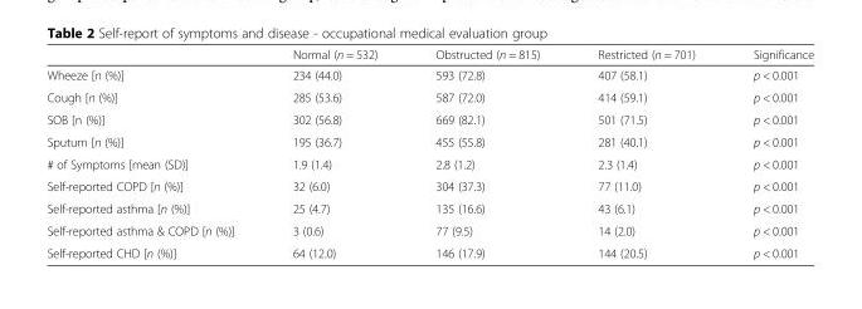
<table><thead><tr><td></td><td>Normal (n = 532)</td><td>Obstructed (n = 815)</td><td>Restricted (n = 701)</td><td>Significance</td></tr></thead><tbody><tr><td>Wheeze [n (%)]</td><td>234 (44.0)</td><td>593 (72.8)</td><td>407 (58.1)</td><td>p &lt; 0.001</td></tr><tr><td>Cough [n (%)]</td><td>285 (53.6)</td><td>587 (72.0)</td><td>414 (59.1)</td><td>p &lt; 0.001</td></tr><tr><td>SOB [n (%)]</td><td>302 (56.8)</td><td>669 (82.1)</td><td>501 (71.5)</td><td>p &lt; 0.001</td></tr><tr><td>Sputum [n (%)]</td><td>195 (36.7)</td><td>455 (55.8)</td><td>281 (40.1)</td><td>p &lt; 0.001</td></tr><tr><td># of Symptoms [mean (SD)]</td><td>1.9 (1.4)</td><td>2.8 (1.2)</td><td>2.3 (1.4)</td><td>p &lt; 0.001</td></tr><tr><td>Self-reported COPD [n (%)]</td><td>32 (6.0)</td><td>304 (37.3)</td><td>77 (11.0)</td><td>p &lt; 0.001</td></tr><tr><td>Self-reported asthma [n (%)]</td><td>25 (4.7)</td><td>135 (16.6)</td><td>43 (6.1)</td><td>p &lt; 0.001</td></tr><tr><td>Self-reported asthma &amp; COPD [n (%)]</td><td>3 (0.6)</td><td>77 (9.5)</td><td>14 (2.0)</td><td>p &lt; 0.001</td></tr><tr><td>Self-reported CHD [n (%)]</td><td>64 (12.0)</td><td>146 (17.9)</td><td>144 (20.5)</td><td>p &lt; 0.001</td></tr></tbody></table>